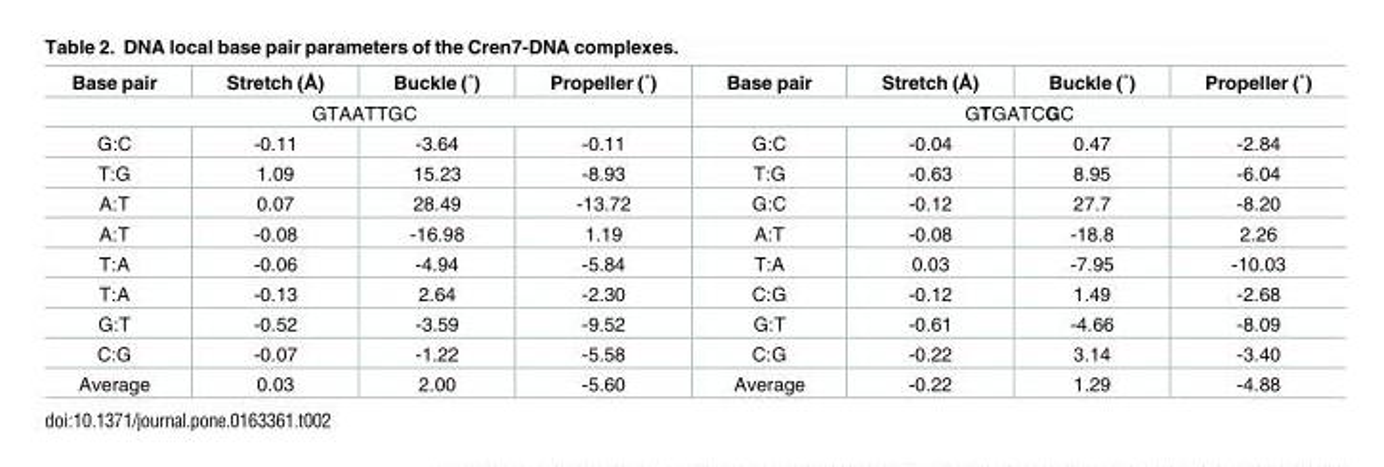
<table><thead><tr><td>Base pair</td><td>Stretch (Å)</td><td>Buckle (˚)</td><td>Propeller (˚)</td><td>Base pair</td><td>Stretch (Å)</td><td>Buckle (˚)</td><td>Propeller (˚)</td></tr></thead><tbody><tr><td colspan="4">GTAATTGC</td><td colspan="4">GTGATCGC</td></tr><tr><td>G:C</td><td>-0.11</td><td>-3.64</td><td>-0.11</td><td>G:C</td><td>-0.04</td><td>0.47</td><td>-2.84</td></tr><tr><td>T:G</td><td>1.09</td><td>15.23</td><td>-8.93</td><td>T:G</td><td>-0.63</td><td>8.95</td><td>-6.04</td></tr><tr><td>A:T</td><td>0.07</td><td>28.49</td><td>-13.72</td><td>G:C</td><td>-0.12</td><td>27.7</td><td>-8.20</td></tr><tr><td>A:T</td><td>-0.08</td><td>-16.98</td><td>1.19</td><td>A:T</td><td>-0.08</td><td>-18.8</td><td>2.26</td></tr><tr><td>T:A</td><td>-0.06</td><td>-4.94</td><td>-5.84</td><td>T:A</td><td>0.03</td><td>-7.95</td><td>-10.03</td></tr><tr><td>T:A</td><td>-0.13</td><td>2.64</td><td>-2.30</td><td>C:G</td><td>-0.12</td><td>1.49</td><td>-2.68</td></tr><tr><td>G:T</td><td>-0.52</td><td>-3.59</td><td>-9.52</td><td>G:T</td><td>-0.61</td><td>-4.66</td><td>-8.09</td></tr><tr><td>C:G</td><td>-0.07</td><td>-1.22</td><td>-5.58</td><td>C:G</td><td>-0.22</td><td>3.14</td><td>-3.40</td></tr><tr><td>Average</td><td>0.03</td><td>2.00</td><td>-5.60</td><td>Average</td><td>-0.22</td><td>1.29</td><td>-4.88</td></tr></tbody></table>